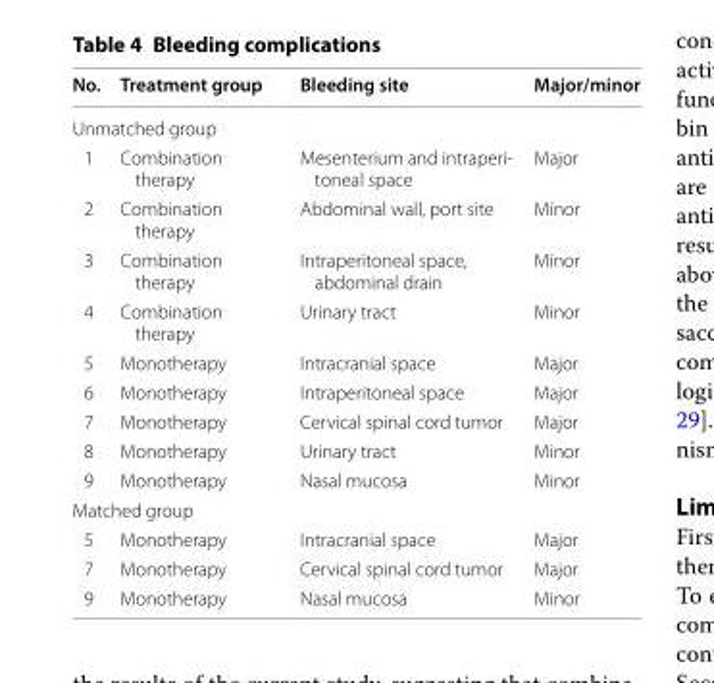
<table><thead><tr><td>No.</td><td>Treatment group</td><td>Bleeding site</td><td>Major/minor</td></tr></thead><tbody><tr><td colspan="4">Unmatched group</td></tr><tr><td>1</td><td>Combination therapy</td><td>Mesenterium and intraperi- toneal space</td><td>Major</td></tr><tr><td>2</td><td>Combination therapy</td><td>Abdominal wall, port site</td><td>Minor</td></tr><tr><td>3</td><td>Combination therapy</td><td>Intraperitoneal space, abdominal drain</td><td>Minor</td></tr><tr><td>4</td><td>Combination therapy</td><td>Urinary tract</td><td>Minor</td></tr><tr><td>5</td><td>Monotherapy</td><td>Intracranial space</td><td>Major</td></tr><tr><td>6</td><td>Monotherapy</td><td>Intraperitoneal space</td><td>Major</td></tr><tr><td>7</td><td>Monotherapy</td><td>Cervical spinal cord tumor</td><td>Major</td></tr><tr><td>8</td><td>Monotherapy</td><td>Urinary tract</td><td>Minor</td></tr><tr><td>9</td><td>Monotherapy</td><td>Nasal mucosa</td><td>Minor</td></tr><tr><td colspan="4">Matched group</td></tr><tr><td>5</td><td>Monotherapy</td><td>Intracranial space</td><td>Major</td></tr><tr><td>7</td><td>Monotherapy</td><td>Cervical spinal cord tumor</td><td>Major</td></tr><tr><td>9</td><td>Monotherapy</td><td>Nasal mucosa</td><td>Minor</td></tr></tbody></table>